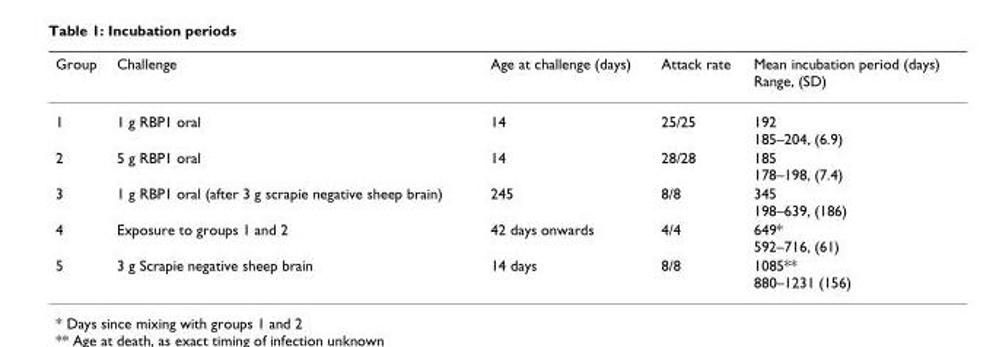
<table><thead><tr><td>Group</td><td>Challenge</td><td>Age at challenge (days)</td><td>Attack rate</td><td>Mean incubation period (days) Range, (SD)</td></tr></thead><tbody><tr><td>1</td><td>1 g RBP1 oral</td><td>14</td><td>25/25</td><td>192 185–204, (6.9)</td></tr><tr><td>2</td><td>5 g RBP1 oral</td><td>14</td><td>28/28</td><td>185 178–198, (7.4)</td></tr><tr><td>3</td><td>1 g RBP1 oral (after 3 g scrapie negative sheep brain)</td><td>245</td><td>8/8</td><td>345 198–639, (186)</td></tr><tr><td>4</td><td>Exposure to groups 1 and 2</td><td>42 days onwards</td><td>4/4</td><td>649* 592–716, (61)</td></tr><tr><td>5</td><td>3 g Scrapie negative sheep brain</td><td>14 days</td><td>8/8</td><td>1085** 880–1231 (156)</td></tr></tbody></table>